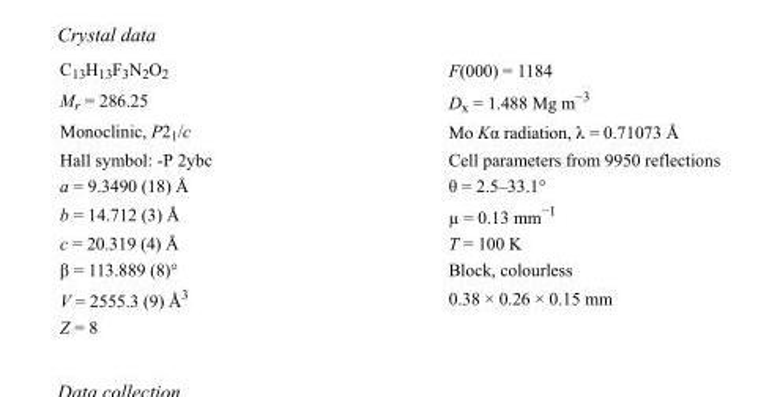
<table><tbody><tr><td>C<sub>13</sub>H<sub>13</sub>F<sub>3</sub>N<sub>2</sub>O<sub>2</sub></td><td>F(000) = 1184</td></tr><tr><td>M<sub>r</sub> = 286.25</td><td>D<sub>x</sub> = 1.488 Mg m<sup>−3</sup></td></tr><tr><td>Monoclinic, P2<sub>1</sub>/c</td><td>Mo Kα radiation, λ = 0.71073 Å</td></tr><tr><td>Hall symbol: -P 2ybc</td><td>Cell parameters from 9950 reflections</td></tr><tr><td>a = 9.3490 (18) Å</td><td>θ = 2.5–33.1°</td></tr><tr><td>b = 14.712 (3) Å</td><td>µ = 0.13 mm<sup>−1</sup></td></tr><tr><td>c = 20.319 (4) Å</td><td>T = 100 K</td></tr><tr><td>β = 113.889 (8)°</td><td>Block, colourless</td></tr><tr><td>V = 2555.3 (9) Å<sup>3</sup></td><td>0.38 × 0.26 × 0.15 mm</td></tr><tr><td>Z = 8</td><td></td></tr></tbody></table>